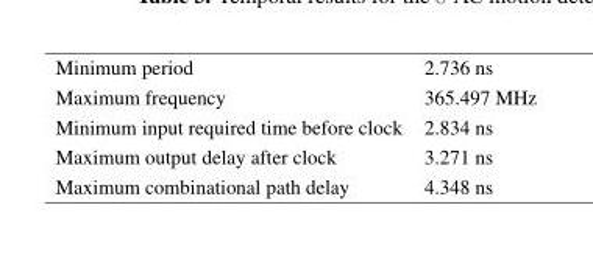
<table><tbody><tr><td>Minimum period</td><td>2.736 ns</td></tr><tr><td>Maximum frequency</td><td>365.497 MHz</td></tr><tr><td>Minimum input required time before clock</td><td>2.834 ns</td></tr><tr><td>Maximum output delay after clock</td><td>3.271 ns</td></tr><tr><td>Maximum combinational path delay</td><td>4.348 ns</td></tr></tbody></table>